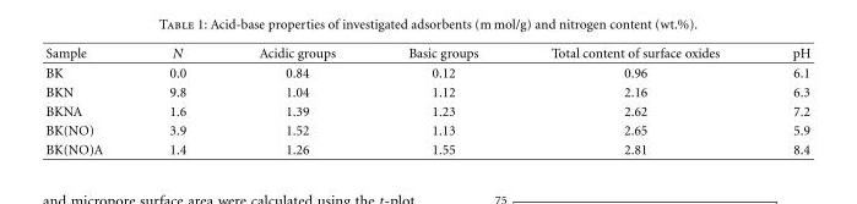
<table><thead><tr><td>Sample</td><td>N</td><td>Acidic groups</td><td>Basic groups</td><td>Total content of surface oxides</td><td>pH</td></tr></thead><tbody><tr><td>BK</td><td>0.0</td><td>0.84</td><td>0.12</td><td>0.96</td><td>6.1</td></tr><tr><td>BKN</td><td>9.8</td><td>1.04</td><td>1.12</td><td>2.16</td><td>6.3</td></tr><tr><td>BKNA</td><td>1.6</td><td>1.39</td><td>1.23</td><td>2.62</td><td>7.2</td></tr><tr><td>BK(NO)</td><td>3.9</td><td>1.52</td><td>1.13</td><td>2.65</td><td>5.9</td></tr><tr><td>BK(NO)A</td><td>1.4</td><td>1.26</td><td>1.55</td><td>2.81</td><td>8.4</td></tr></tbody></table>